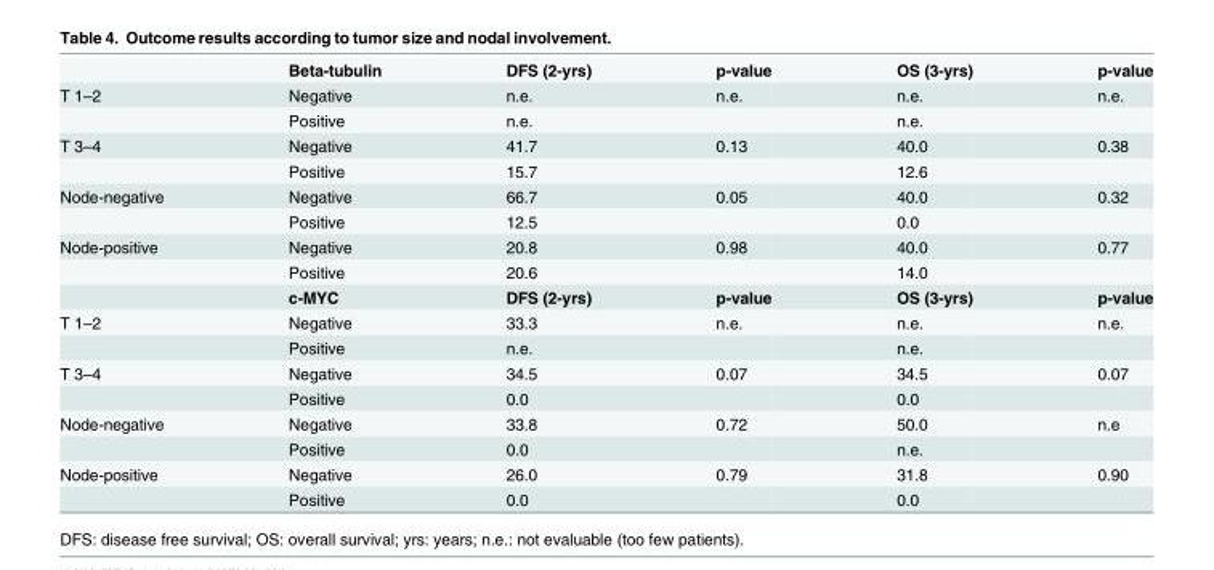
<table><thead><tr><td></td><td>Beta-tubulin</td><td>DFS (2-yrs)</td><td>p-value</td><td>OS (3-yrs)</td><td>p-value</td></tr></thead><tbody><tr><td rowspan="2">T 1–2</td><td>Negative</td><td>n.e.</td><td>n.e.</td><td>n.e.</td><td>n.e.</td></tr><tr><td>Positive</td><td>n.e.</td><td></td><td>n.e.</td><td></td></tr><tr><td rowspan="2">T 3–4</td><td>Negative</td><td>41.7</td><td>0.13</td><td>40.0</td><td>0.38</td></tr><tr><td>Positive</td><td>15.7</td><td></td><td>12.6</td><td></td></tr><tr><td rowspan="2">Node-negative</td><td>Negative</td><td>66.7</td><td>0.05</td><td>40.0</td><td>0.32</td></tr><tr><td>Positive</td><td>12.5</td><td></td><td>0.0</td><td></td></tr><tr><td rowspan="3">Node-positive</td><td>Negative</td><td>20.8</td><td>0.98</td><td>40.0</td><td>0.77</td></tr><tr><td>Positive</td><td>20.6</td><td></td><td>14.0</td><td></td></tr><tr><td>c-MYC</td><td>DFS (2-yrs)</td><td>p-value</td><td>OS (3-yrs)</td><td>p-value</td></tr><tr><td rowspan="2">T 1–2</td><td>Negative</td><td>33.3</td><td>n.e.</td><td>n.e.</td><td>n.e.</td></tr><tr><td>Positive</td><td>n.e.</td><td></td><td>n.e.</td><td></td></tr><tr><td rowspan="2">T 3–4</td><td>Negative</td><td>34.5</td><td>0.07</td><td>34.5</td><td>0.07</td></tr><tr><td>Positive</td><td>0.0</td><td></td><td>0.0</td><td></td></tr><tr><td rowspan="2">Node-negative</td><td>Negative</td><td>33.8</td><td>0.72</td><td>50.0</td><td>n.e</td></tr><tr><td>Positive</td><td>0.0</td><td></td><td>n.e.</td><td></td></tr><tr><td rowspan="2">Node-positive</td><td>Negative</td><td>26.0</td><td>0.79</td><td>31.8</td><td>0.90</td></tr><tr><td>Positive</td><td>0.0</td><td></td><td>0.0</td><td></td></tr></tbody></table>